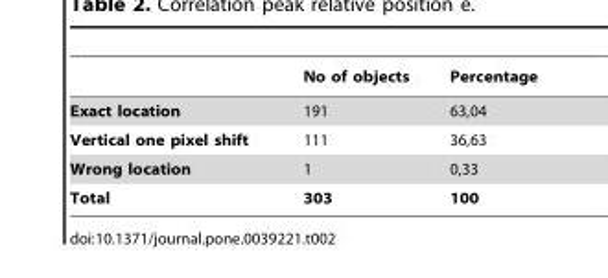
<table><thead><tr><td></td><td>No of objects</td><td>Percentage</td></tr></thead><tbody><tr><td>Exact location</td><td>191</td><td>63,04</td></tr><tr><td>Vertical one pixel shift</td><td>111</td><td>36,63</td></tr><tr><td>Wrong location</td><td>1</td><td>0,33</td></tr><tr><td>Total</td><td>303</td><td>100</td></tr></tbody></table>